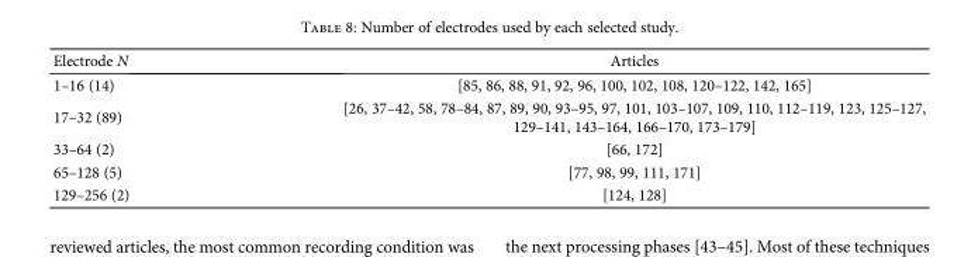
<table><thead><tr><td>Electrode N</td><td>Articles</td></tr></thead><tbody><tr><td>1–16 (14)</td><td>[85, 86, 88, 91, 92, 96, 100, 102, 108, 120–122, 142, 165]</td></tr><tr><td>17–32 (89)</td><td>[26, 37–42, 58, 78–84, 87, 89, 90, 93–95, 97, 101, 103–107, 109, 110, 112–119, 123, 125–127, 129–141, 143–164, 166–170, 173–179]</td></tr><tr><td>33–64 (2)</td><td>[66, 172]</td></tr><tr><td>65–128 (5)</td><td>[77, 98, 99, 111, 171]</td></tr><tr><td>129–256 (2)</td><td>[124, 128]</td></tr></tbody></table>